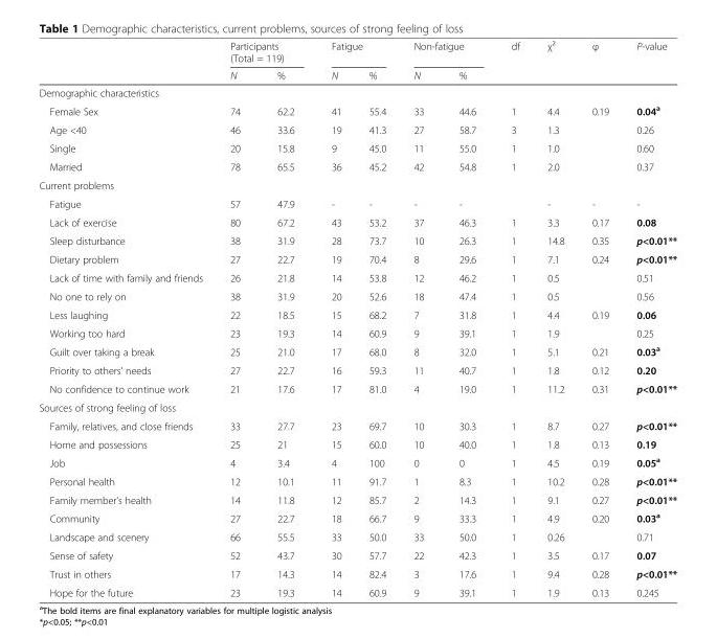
<table><thead><tr><td rowspan="2"></td><td colspan="2">Participants (Total = 119)</td><td colspan="2">Fatigue</td><td colspan="2">Non-fatigue</td><td rowspan="2">df</td><td rowspan="2">χ²</td><td rowspan="2">φ</td><td rowspan="2">P-value</td></tr><tr><td>N</td><td>%</td><td>N</td><td>%</td><td>N</td><td>%</td></tr></thead><tbody><tr><td colspan="11">Demographic characteristics</td></tr><tr><td>Female Sex</td><td>74</td><td>62.2</td><td>41</td><td>55.4</td><td>33</td><td>44.6</td><td>1</td><td>4.4</td><td>0.19</td><td>0.04<sup>a</sup></td></tr><tr><td>Age &lt;40</td><td>46</td><td>33.6</td><td>19</td><td>41.3</td><td>27</td><td>58.7</td><td>3</td><td>1.3</td><td></td><td>0.26</td></tr><tr><td>Single</td><td>20</td><td>15.8</td><td>9</td><td>45.0</td><td>11</td><td>55.0</td><td>1</td><td>1.0</td><td></td><td>0.60</td></tr><tr><td>Married</td><td>78</td><td>65.5</td><td>36</td><td>45.2</td><td>42</td><td>54.8</td><td>1</td><td>2.0</td><td></td><td>0.37</td></tr><tr><td colspan="11">Current problems</td></tr><tr><td>Fatigue</td><td>57</td><td>47.9</td><td>-</td><td>-</td><td>-</td><td>-</td><td></td><td>-</td><td>-</td><td>-</td></tr><tr><td>Lack of exercise</td><td>80</td><td>67.2</td><td>43</td><td>53.2</td><td>37</td><td>46.3</td><td>1</td><td>3.3</td><td>0.17</td><td>0.08</td></tr><tr><td>Sleep disturbance</td><td>38</td><td>31.9</td><td>28</td><td>73.7</td><td>10</td><td>26.3</td><td>1</td><td>14.8</td><td>0.35</td><td>p&lt;0.01**</td></tr><tr><td>Dietary problem</td><td>27</td><td>22.7</td><td>19</td><td>70.4</td><td>8</td><td>29.6</td><td>1</td><td>7.1</td><td>0.24</td><td>p&lt;0.01**</td></tr><tr><td>Lack of time with family and friends</td><td>26</td><td>21.8</td><td>14</td><td>53.8</td><td>12</td><td>46.2</td><td>1</td><td>0.5</td><td></td><td>0.51</td></tr><tr><td>No one to rely on</td><td>38</td><td>31.9</td><td>20</td><td>52.6</td><td>18</td><td>47.4</td><td>1</td><td>0.5</td><td></td><td>0.56</td></tr><tr><td>Less laughing</td><td>22</td><td>18.5</td><td>15</td><td>68.2</td><td>7</td><td>31.8</td><td>1</td><td>4.4</td><td>0.19</td><td>0.06</td></tr><tr><td>Working too hard</td><td>23</td><td>19.3</td><td>14</td><td>60.9</td><td>9</td><td>39.1</td><td>1</td><td>1.9</td><td></td><td>0.25</td></tr><tr><td>Guilt over taking a break</td><td>25</td><td>21.0</td><td>17</td><td>68.0</td><td>8</td><td>32.0</td><td>1</td><td>5.1</td><td>0.21</td><td>0.03<sup>a</sup></td></tr><tr><td>Priority to others’ needs</td><td>27</td><td>22.7</td><td>16</td><td>59.3</td><td>11</td><td>40.7</td><td>1</td><td>1.8</td><td>0.12</td><td>0.20</td></tr><tr><td>No confidence to continue work</td><td>21</td><td>17.6</td><td>17</td><td>81.0</td><td>4</td><td>19.0</td><td>1</td><td>11.2</td><td>0.31</td><td>p&lt;0.01**</td></tr><tr><td colspan="11">Sources of strong feeling of loss</td></tr><tr><td>Family, relatives, and close friends</td><td>33</td><td>27.7</td><td>23</td><td>69.7</td><td>10</td><td>30.3</td><td>1</td><td>8.7</td><td>0.27</td><td>p&lt;0.01**</td></tr><tr><td>Home and possessions</td><td>25</td><td>21</td><td>15</td><td>60.0</td><td>10</td><td>40.0</td><td>1</td><td>1.8</td><td>0.13</td><td>0.19</td></tr><tr><td>Job</td><td>4</td><td>3.4</td><td>4</td><td>100</td><td>0</td><td>0</td><td>1</td><td>4.5</td><td>0.19</td><td>0.05<sup>a</sup></td></tr><tr><td>Personal health</td><td>12</td><td>10.1</td><td>11</td><td>91.7</td><td>1</td><td>8.3</td><td>1</td><td>10.2</td><td>0.28</td><td>p&lt;0.01**</td></tr><tr><td>Family member’s health</td><td>14</td><td>11.8</td><td>12</td><td>85.7</td><td>2</td><td>14.3</td><td>1</td><td>9.1</td><td>0.27</td><td>p&lt;0.01**</td></tr><tr><td>Community</td><td>27</td><td>22.7</td><td>18</td><td>66.7</td><td>9</td><td>33.3</td><td>1</td><td>4.9</td><td>0.20</td><td>0.03<sup>a</sup></td></tr><tr><td>Landscape and scenery</td><td>66</td><td>55.5</td><td>33</td><td>50.0</td><td>33</td><td>50.0</td><td>1</td><td>0.26</td><td></td><td>0.71</td></tr><tr><td>Sense of safety</td><td>52</td><td>43.7</td><td>30</td><td>57.7</td><td>22</td><td>42.3</td><td>1</td><td>3.5</td><td>0.17</td><td>0.07</td></tr><tr><td>Trust in others</td><td>17</td><td>14.3</td><td>14</td><td>82.4</td><td>3</td><td>17.6</td><td>1</td><td>9.4</td><td>0.28</td><td>p&lt;0.01**</td></tr><tr><td>Hope for the future</td><td>23</td><td>19.3</td><td>14</td><td>60.9</td><td>9</td><td>39.1</td><td>1</td><td>1.9</td><td>0.13</td><td>0.245</td></tr></tbody></table>